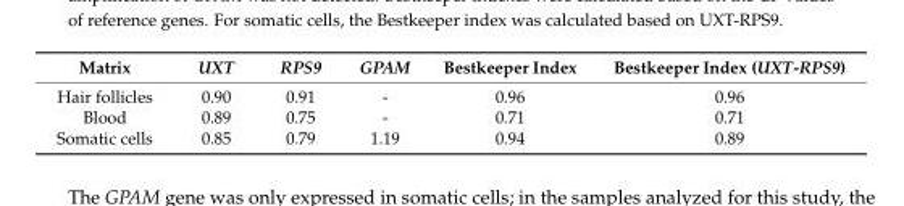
<table><thead><tr><td>Matrix</td><td>UXT</td><td>RPS9</td><td>GPAM</td><td>Bestkeeper Index</td><td>Bestkeeper Index (UXT-RPS9)</td></tr></thead><tbody><tr><td>Hair follicles</td><td>0.90</td><td>0.91</td><td>-</td><td>0.96</td><td>0.96</td></tr><tr><td>Blood</td><td>0.89</td><td>0.75</td><td>-</td><td>0.71</td><td>0.71</td></tr><tr><td>Somatic cells</td><td>0.85</td><td>0.79</td><td>1.19</td><td>0.94</td><td>0.89</td></tr></tbody></table>